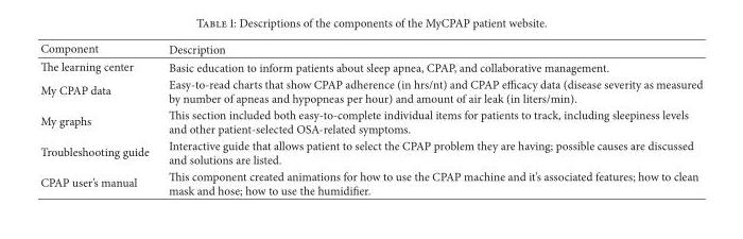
<table><thead><tr><td>Component</td><td>Description</td></tr></thead><tbody><tr><td>The learning center</td><td>Basic education to inform patients about sleep apnea, CPAP, and collaborative management.</td></tr><tr><td>My CPAP data</td><td>Easy-to-read charts that show CPAP adherence (in hrs/nt) and CPAP efficacy data (disease severity as measured by number of apneas and hypopneas per hour) and amount of air leak (in liters/min).</td></tr><tr><td>My graphs</td><td>This section included both easy-to-complete individual items for patients to track, including sleepiness levels and other patient-selected OSA-related symptoms.</td></tr><tr><td>Troubleshooting guide</td><td>Interactive guide that allows patient to select the CPAP problem they are having; possible causes are discussed and solutions are listed.</td></tr><tr><td>CPAP user’s manual</td><td>This component created animations for how to use the CPAP machine and it’s associated features; how to clean mask and hose; how to use the humidifier.</td></tr></tbody></table>